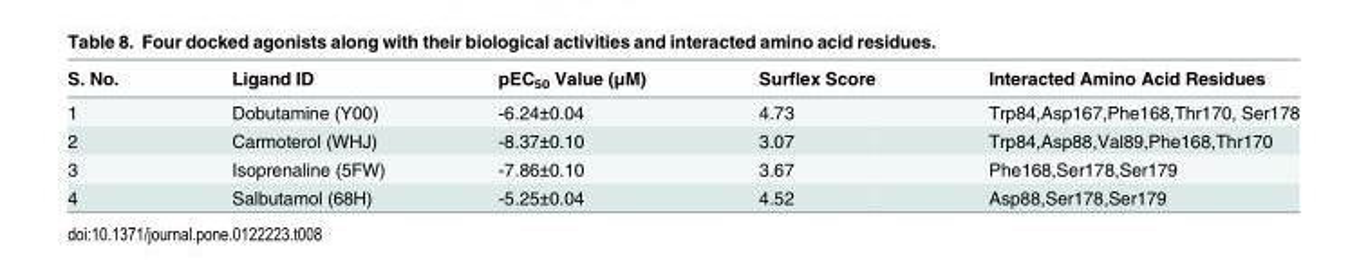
<table><thead><tr><td>S. No.</td><td>Ligand ID</td><td>pEC<sub>50</sub> Value (μM)</td><td>Surflex Score</td><td>Interacted Amino Acid Residues</td></tr></thead><tbody><tr><td>1</td><td>Dobutamine (Y00)</td><td>-6.24±0.04</td><td>4.73</td><td>Trp84,Asp167,Phe168,Thr170, Ser178</td></tr><tr><td>2</td><td>Carmoterol (WHJ)</td><td>-8.37±0.10</td><td>3.07</td><td>Trp84,Asp88,Val89,Phe168,Thr170</td></tr><tr><td>3</td><td>Isoprenaline (5FW)</td><td>-7.86±0.10</td><td>3.67</td><td>Phe168,Ser178,Ser179</td></tr><tr><td>4</td><td>Salbutamol (68H)</td><td>-5.25±0.04</td><td>4.52</td><td>Asp88,Ser178,Ser179</td></tr></tbody></table>